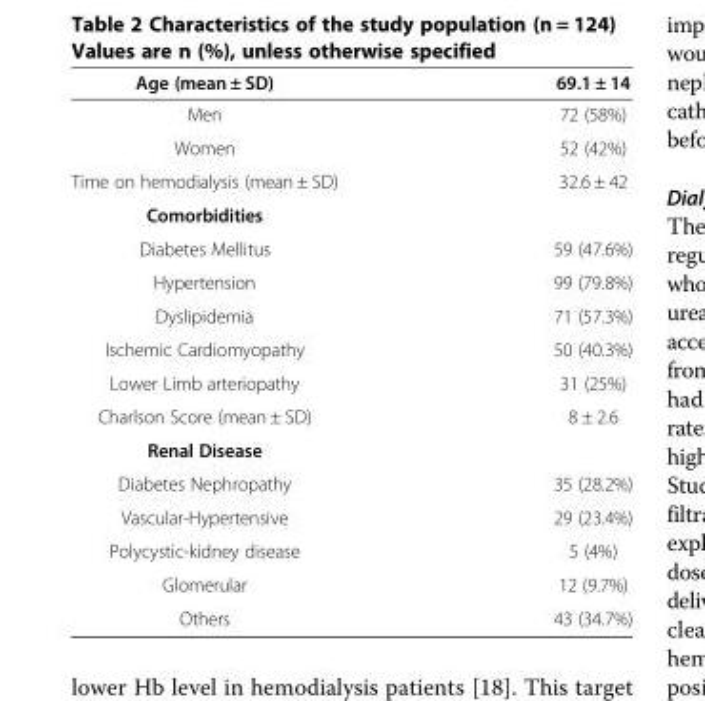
<table><thead><tr><td>Age (mean ± SD)</td><td>69.1 ± 14</td></tr></thead><tbody><tr><td>Men</td><td>72 (58%)</td></tr><tr><td>Women</td><td>52 (42%)</td></tr><tr><td>Time on hemodialysis (mean ± SD)</td><td>32.6 ± 42</td></tr><tr><td colspan="2">Comorbidities</td></tr><tr><td>Diabetes Mellitus</td><td>59 (47.6%)</td></tr><tr><td>Hypertension</td><td>99 (79.8%)</td></tr><tr><td>Dyslipidemia</td><td>71 (57.3%)</td></tr><tr><td>Ischemic Cardiomyopathy</td><td>50 (40.3%)</td></tr><tr><td>Lower Limb arteriopathy</td><td>31 (25%)</td></tr><tr><td>Charlson Score (mean ± SD)</td><td>8 ± 2.6</td></tr><tr><td colspan="2">Renal Disease</td></tr><tr><td>Diabetes Nephropathy</td><td>35 (28.2%)</td></tr><tr><td>Vascular-Hypertensive</td><td>29 (23.4%)</td></tr><tr><td>Polycystic-kidney disease</td><td>5 (4%)</td></tr><tr><td>Glomerular</td><td>12 (9.7%)</td></tr><tr><td>Others</td><td>43 (34.7%)</td></tr></tbody></table>